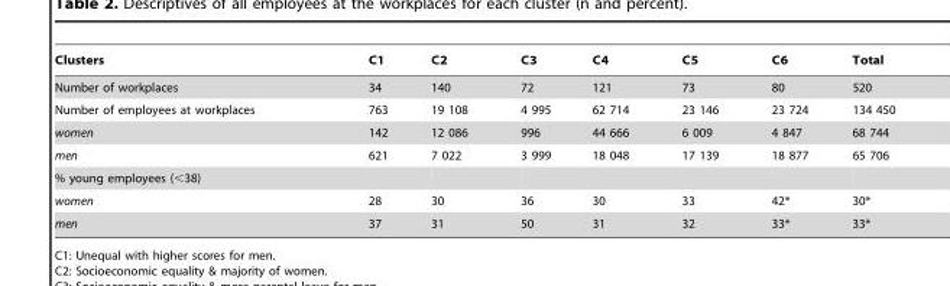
<table><thead><tr><td>Clusters</td><td>C1</td><td>C2</td><td>C3</td><td>C4</td><td>C5</td><td>C6</td><td>Total</td></tr></thead><tbody><tr><td>Number of workplaces</td><td>34</td><td>140</td><td>72</td><td>121</td><td>73</td><td>80</td><td>520</td></tr><tr><td>Number of employees at workplaces</td><td>763</td><td>19 108</td><td>4 995</td><td>62 714</td><td>23 146</td><td>23 724</td><td>134 450</td></tr><tr><td>women</td><td>142</td><td>12 086</td><td>996</td><td>44 666</td><td>6 009</td><td>4 847</td><td>68 744</td></tr><tr><td>men</td><td>621</td><td>7 022</td><td>3 999</td><td>18 048</td><td>17 139</td><td>18 877</td><td>65 706</td></tr><tr><td colspan="8">% young employees (&lt;38)</td></tr><tr><td>women</td><td>28</td><td>30</td><td>36</td><td>30</td><td>33</td><td>42*</td><td>30*</td></tr><tr><td>men</td><td>37</td><td>31</td><td>50</td><td>31</td><td>32</td><td>33*</td><td>33*</td></tr></tbody></table>